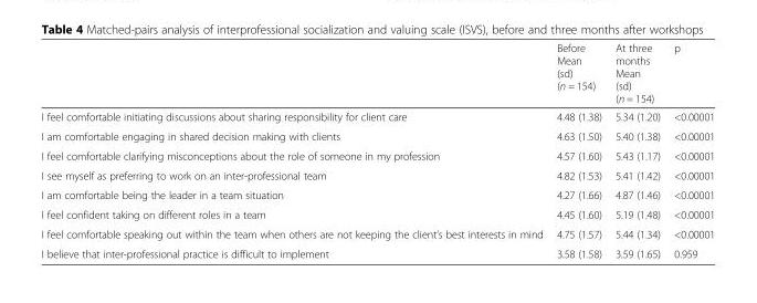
<table><thead><tr><td></td><td>Before Mean (sd) (n = 154)</td><td>At three months Mean (sd) (n = 154)</td><td>p</td></tr></thead><tbody><tr><td>I feel comfortable initiating discussions about sharing responsibility for client care</td><td>4.48 (1.38)</td><td>5.34 (1.20)</td><td>&lt;0.00001</td></tr><tr><td>I am comfortable engaging in shared decision making with clients</td><td>4.63 (1.50)</td><td>5.40 (1.38)</td><td>&lt;0.00001</td></tr><tr><td>I feel comfortable clarifying misconceptions about the role of someone in my profession</td><td>4.57 (1.60)</td><td>5.43 (1.17)</td><td>&lt;0.00001</td></tr><tr><td>I see myself as preferring to work on an inter-professional team</td><td>4.82 (1.53)</td><td>5.41 (1.42)</td><td>&lt;0.00001</td></tr><tr><td>I am comfortable being the leader in a team situation</td><td>4.27 (1.66)</td><td>4.87 (1.46)</td><td>&lt;0.00001</td></tr><tr><td>I feel confident taking on different roles in a team</td><td>4.45 (1.60)</td><td>5.19 (1.48)</td><td>&lt;0.00001</td></tr><tr><td>I feel comfortable speaking out within the team when others are not keeping the client’s best interests in mind</td><td>4.75 (1.57)</td><td>5.44 (1.34)</td><td>&lt;0.00001</td></tr><tr><td>I believe that inter-professional practice is difficult to implement</td><td>3.58 (1.58)</td><td>3.59 (1.65)</td><td>0.959</td></tr></tbody></table>